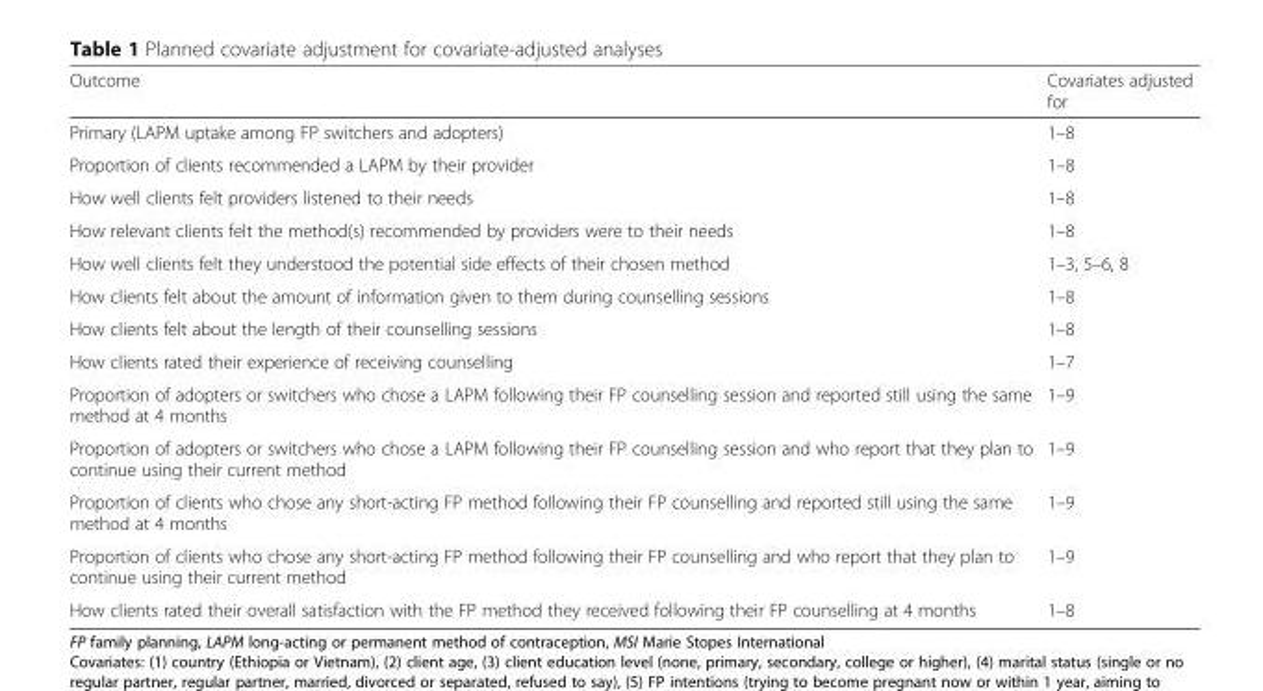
<table><thead><tr><td>Outcome</td><td>Covariates adjusted for</td></tr></thead><tbody><tr><td>Primary (LAPM uptake among FP switchers and adopters)</td><td>1–8</td></tr><tr><td>Proportion of clients recommended a LAPM by their provider</td><td>1–8</td></tr><tr><td>How well clients felt providers listened to their needs</td><td>1–8</td></tr><tr><td>How relevant clients felt the method(s) recommended by providers were to their needs</td><td>1–8</td></tr><tr><td>How well clients felt they understood the potential side effects of their chosen method</td><td>1–3, 5–6, 8</td></tr><tr><td>How clients felt about the amount of information given to them during counselling sessions</td><td>1–8</td></tr><tr><td>How clients felt about the length of their counselling sessions</td><td>1–8</td></tr><tr><td>How clients rated their experience of receiving counselling</td><td>1–7</td></tr><tr><td>Proportion of adopters or switchers who chose a LAPM following their FP counselling session and reported still using the same method at 4 months</td><td>1–9</td></tr><tr><td>Proportion of adopters or switchers who chose a LAPM following their FP counselling session and who report that they plan to continue using their current method</td><td>1–9</td></tr><tr><td>Proportion of clients who chose any short-acting FP method following their FP counselling and reported still using the same method at 4 months</td><td>1–9</td></tr><tr><td>Proportion of clients who chose any short-acting FP method following their FP counselling and who report that they plan to continue using their current method</td><td>1–9</td></tr><tr><td>How clients rated their overall satisfaction with the FP method they received following their FP counselling at 4 months</td><td>1–8</td></tr></tbody></table>